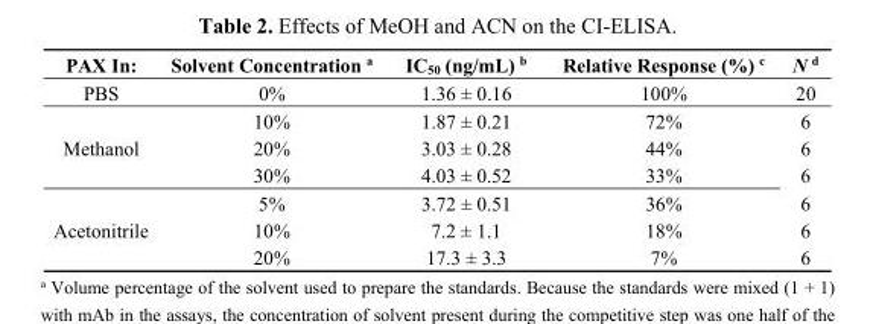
<table><thead><tr><td>PAX In:</td><td>Solvent Concentration <sup>a</sup></td><td>IC<sub>50</sub> (ng/mL) <sup>b</sup></td><td>Relative Response (%) <sup>c</sup></td><td>N <sup>d</sup></td></tr></thead><tbody><tr><td>PBS</td><td>0%</td><td>1.36 ± 0.16</td><td>100%</td><td>20</td></tr><tr><td rowspan="3">Methanol</td><td>10%</td><td>1.87 ± 0.21</td><td>72%</td><td>6</td></tr><tr><td>20%</td><td>3.03 ± 0.28</td><td>44%</td><td>6</td></tr><tr><td>30%</td><td>4.03 ± 0.52</td><td>33%</td><td>6</td></tr><tr><td rowspan="3">Acetonitrile</td><td>5%</td><td>3.72 ± 0.51</td><td>36%</td><td>6</td></tr><tr><td>10%</td><td>7.2 ± 1.1</td><td>18%</td><td>6</td></tr><tr><td>20%</td><td>17.3 ± 3.3</td><td>7%</td><td>6</td></tr></tbody></table>